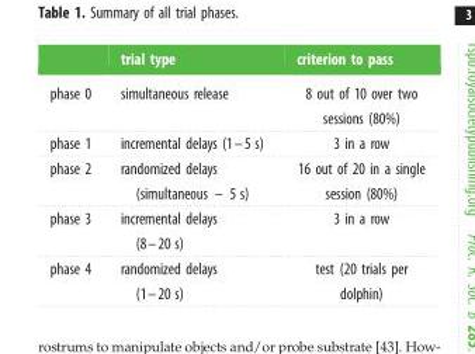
<table><thead><tr><td></td><td>trial type</td><td>criterion to pass</td></tr></thead><tbody><tr><td>phase 0</td><td>simultaneous release</td><td>8 out of 10 over two sessions (80%)</td></tr><tr><td>phase 1</td><td>incremental delays (1–5 s)</td><td>3 in a row</td></tr><tr><td>phase 2</td><td>randomized delays (simultaneous – 5 s)</td><td>16 out of 20 in a single session (80%)</td></tr><tr><td>phase 3</td><td>incremental delays (8–20 s)</td><td>3 in a row</td></tr><tr><td>phase 4</td><td>randomized delays (1–20 s)</td><td>test (20 trials per dolphin)</td></tr></tbody></table>